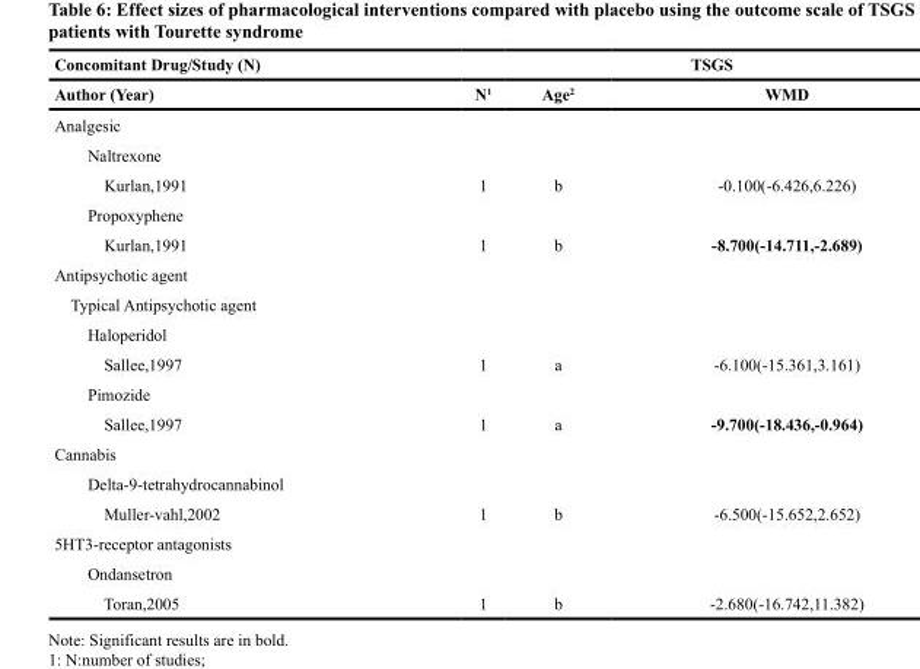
<table><thead><tr><td rowspan="2">Concomitant Drug/Study (N) Author (Year)</td><td colspan="3">TSGS</td></tr><tr><td>N<sup>1</sup></td><td>Age<sup>2</sup></td><td>WMD</td></tr></thead><tbody><tr><td colspan="4">Analgesic</td></tr><tr><td colspan="4">Naltrexone</td></tr><tr><td>Kurlan,1991</td><td>1</td><td>b</td><td>-0.100(-6.426,6.226)</td></tr><tr><td colspan="4">Propoxyphene</td></tr><tr><td>Kurlan,1991</td><td>1</td><td>b</td><td>-8.700(-14.711,-2.689)</td></tr><tr><td colspan="4">Antipsychotic agent</td></tr><tr><td colspan="4">Typical Antipsychotic agent</td></tr><tr><td colspan="4">Haloperidol</td></tr><tr><td>Sallee,1997</td><td>1</td><td>a</td><td>-6.100(-15.361,3.161)</td></tr><tr><td colspan="4">Pimozide</td></tr><tr><td>Sallee,1997</td><td>1</td><td>a</td><td>-9.700(-18.436,-0.964)</td></tr><tr><td colspan="4">Cannabis</td></tr><tr><td colspan="4">Delta-9-tetrahydrocannabinol</td></tr><tr><td>Muller-vahl,2002</td><td>1</td><td>b</td><td>-6.500(-15.652,2.652)</td></tr><tr><td colspan="4">5HT3-receptor antagonists</td></tr><tr><td colspan="4">Ondansetron</td></tr><tr><td>Toran,2005</td><td>1</td><td>b</td><td>-2.680(-16.742,11.382)</td></tr></tbody></table>